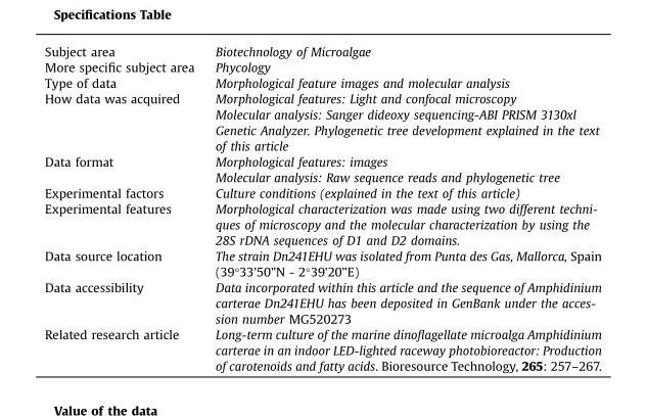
<table><tbody><tr><td>Subject area</td><td>Biotechnology of Microalgae</td></tr><tr><td>More specific subject area</td><td>Phycology</td></tr><tr><td>Type of data</td><td>Morphological feature images and molecular analysis</td></tr><tr><td rowspan="2">How data was acquired</td><td>Morphological features: Light and confocal microscopy</td></tr><tr><td>Molecular analysis: Sanger dideoxy sequencing-ABI PRISM 3130xl Genetic Analyzer. Phylogenetic tree development explained in the text of this article</td></tr><tr><td rowspan="2">Data format</td><td>Morphological features: images</td></tr><tr><td>Molecular analysis: Raw sequence reads and phylogenetic tree</td></tr><tr><td>Experimental factors</td><td>Culture conditions (explained in the text of this article)</td></tr><tr><td>Experimental features</td><td>Morphological characterization was made using two different techni- ques of microscopy and the molecular characterization by using the 28S rDNA sequences of D1 and D2 domains.</td></tr><tr><td>Data source location</td><td>The strain Dn241EHU was isolated from Punta des Gas, Mallorca, Spain (39°33&#x27;50&quot;N - 2°39&#x27;20&quot;E)</td></tr><tr><td>Data accessibility</td><td>Data incorporated within this article and the sequence of Amphidinium carterae Dn241EHU has been deposited in GenBank under the acces- sion number MG520273</td></tr><tr><td>Related research article</td><td>Long-term culture of the marine dinoflagellate microalga Amphidinium carterae in an indoor LED-lighted raceway photobioreactor: Production of carotenoids and fatty acids. Bioresource Technology, 265: 257–267.</td></tr></tbody></table>